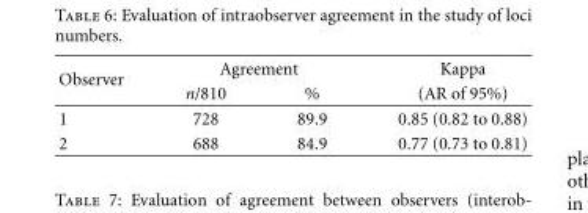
<table><thead><tr><td rowspan="2">Observer</td><td colspan="2">Agreement</td><td rowspan="2">Kappa (AR of 95%)</td></tr><tr><td>n/810</td><td>%</td></tr></thead><tbody><tr><td>1</td><td>728</td><td>89.9</td><td>0.85 (0.82 to 0.88)</td></tr><tr><td>2</td><td>688</td><td>84.9</td><td>0.77 (0.73 to 0.81)</td></tr></tbody></table>